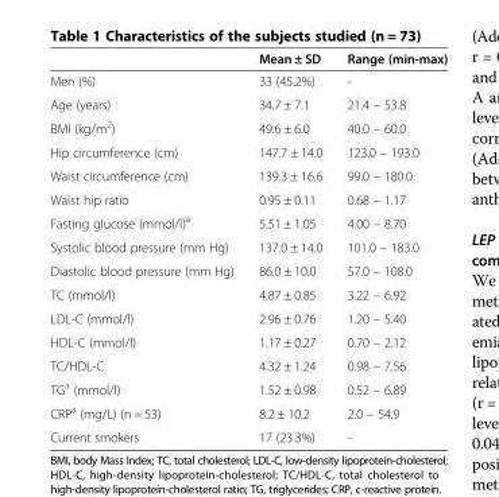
<table><thead><tr><td></td><td>Mean ± SD</td><td>Range (min-max)</td></tr></thead><tbody><tr><td>Men (%)</td><td>33 (45.2%)</td><td>-</td></tr><tr><td>Age (years)</td><td>34.7 ± 7.1</td><td>21.4 – 53.8</td></tr><tr><td>BMI (kg/m<sup>2</sup>)</td><td>49.6 ± 6.0</td><td>40.0 – 60.0</td></tr><tr><td>Hip circumference (cm)</td><td>147.7 ± 14.0</td><td>123.0 – 193.0</td></tr><tr><td>Waist circumference (cm)</td><td>139.3 ± 16.6</td><td>99.0 – 180.0</td></tr><tr><td>Waist hip ratio</td><td>0.95 ± 0.11</td><td>0.68 – 1.17</td></tr><tr><td>Fasting glucose (mmol/l)<sup>a</sup></td><td>5.51 ± 1.05</td><td>4.00 – 8.70</td></tr><tr><td>Systolic blood pressure (mm Hg)</td><td>137.0 ± 14.0</td><td>101.0 – 183.0</td></tr><tr><td>Diastolic blood pressure (mm Hg)</td><td>86.0 ± 10.0</td><td>57.0 – 108.0</td></tr><tr><td>TC (mmol/l)</td><td>4.87 ± 0.85</td><td>3.22 – 6.92</td></tr><tr><td>LDL-C (mmol/l)</td><td>2.96 ± 0.76</td><td>1.20 – 5.40</td></tr><tr><td>HDL-C (mmol/l)</td><td>1.17 ± 0.27</td><td>0.70 – 2.12</td></tr><tr><td>TC/HDL-C</td><td>4.32 ± 1.24</td><td>0.98 – 7.56</td></tr><tr><td>TG<sup>a</sup> (mmol/l)</td><td>1.52 ± 0.98</td><td>0.52 – 6.89</td></tr><tr><td>CRP<sup>a</sup> (mg/L) (n = 53)</td><td>8.2 ± 10.2</td><td>2.0 – 54.9</td></tr><tr><td>Current smokers</td><td>17 (23.3%)</td><td>-</td></tr></tbody></table>